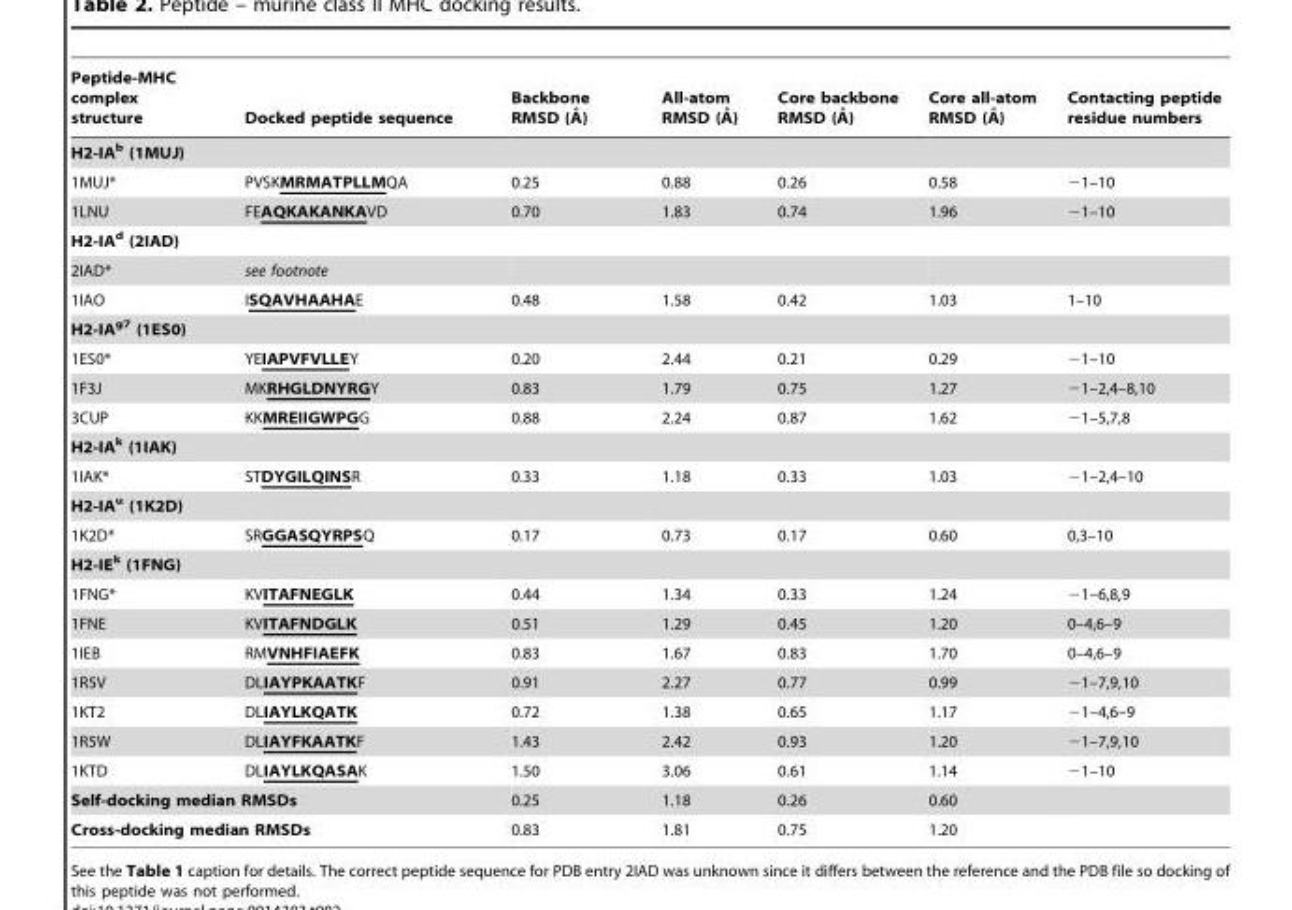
<table><thead><tr><td>Peptide-MHC complex structure</td><td>Docked peptide sequence</td><td>Backbone RMSD (A˚ )</td><td>All-atom RMSD (A˚ )</td><td>Core backbone RMSD (A˚)</td><td>Core all-atom RMSD (A˚)</td><td>Contacting peptide residue numbers</td></tr></thead><tbody><tr><td colspan="7">H2-IA<sup>b</sup> (1MUJ)</td></tr><tr><td>1MUJ*</td><td>PVSKMRMATPLLMQA</td><td>0.25</td><td>0.88</td><td>0.26</td><td>0.58</td><td>−1–10</td></tr><tr><td>1LNU</td><td>FEAQKAKANKAVD</td><td>0.70</td><td>1.83</td><td>0.74</td><td>1.96</td><td>−1–10</td></tr><tr><td colspan="7">H2-IA<sup>d</sup> (2IAD)</td></tr><tr><td>2IAD*</td><td>see footnote</td><td></td><td></td><td></td><td></td><td></td></tr><tr><td>1IAO</td><td>ISQAVHAAHAE</td><td>0.48</td><td>1.58</td><td>0.42</td><td>1.03</td><td>1–10</td></tr><tr><td colspan="7">H2-IA<sup>g7</sup> (1ES0)</td></tr><tr><td>1ES0*</td><td>YEIAPVFVLLEY</td><td>0.20</td><td>2.44</td><td>0.21</td><td>0.29</td><td>−1–10</td></tr><tr><td>1F3J</td><td>MKRHGLDNYRGY</td><td>0.83</td><td>1.79</td><td>0.75</td><td>1.27</td><td>−1–2,4–8,10</td></tr><tr><td>3CUP</td><td>KKMREIIGWPGG</td><td>0.88</td><td>2.24</td><td>0.87</td><td>1.62</td><td>−1–5,7,8</td></tr><tr><td colspan="7">H2-IA<sup>k</sup> (1IAK)</td></tr><tr><td>1IAK*</td><td>STDYGILQINSR</td><td>0.33</td><td>1.18</td><td>0.33</td><td>1.03</td><td>−1–2,4–10</td></tr><tr><td colspan="7">H2-IA<sup>u</sup> (1K2D)</td></tr><tr><td>1K2D*</td><td>SRGGASQYRPSQ</td><td>0.17</td><td>0.73</td><td>0.17</td><td>0.60</td><td>0,3–10</td></tr><tr><td colspan="7">H2-IE<sup>k</sup> (1FNG)</td></tr><tr><td>1FNG*</td><td>KVITAFNEGLK</td><td>0.44</td><td>1.34</td><td>0.33</td><td>1.24</td><td>−1–6,8,9</td></tr><tr><td>1FNE</td><td>KVITAFNDGLK</td><td>0.51</td><td>1.29</td><td>0.45</td><td>1.20</td><td>0–4,6–9</td></tr><tr><td>1IEB</td><td>RMVNHFIAEFK</td><td>0.83</td><td>1.67</td><td>0.83</td><td>1.70</td><td>0–4,6–9</td></tr><tr><td>1R5V</td><td>DLIAYPKAATKF</td><td>0.91</td><td>2.27</td><td>0.77</td><td>0.99</td><td>−1–7,9,10</td></tr><tr><td>1KT2</td><td>DLIAYLKQATK</td><td>0.72</td><td>1.38</td><td>0.65</td><td>1.17</td><td>−1–4,6–9</td></tr><tr><td>1R5W</td><td>DLIAYFKAATKF</td><td>1.43</td><td>2.42</td><td>0.93</td><td>1.20</td><td>−1–7,9,10</td></tr><tr><td>1KTD</td><td>DLIAYLKQASAK</td><td>1.50</td><td>3.06</td><td>0.61</td><td>1.14</td><td>−1–10</td></tr><tr><td colspan="2">Self-docking median RMSDs</td><td>0.25</td><td>1.18</td><td>0.26</td><td>0.60</td><td></td></tr><tr><td colspan="2">Cross-docking median RMSDs</td><td>0.83</td><td>1.81</td><td>0.75</td><td>1.20</td><td></td></tr></tbody></table>